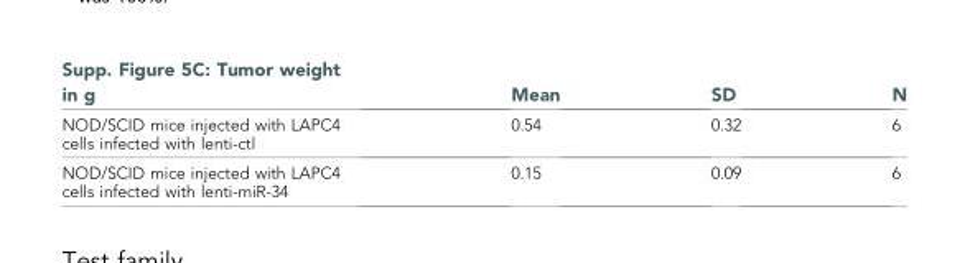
<table><thead><tr><td>Supp. Figure 5C: Tumor weight in g</td><td>Mean</td><td>SD</td><td>N</td></tr></thead><tbody><tr><td>NOD/SCID mice injected with LAPC4 cells infected with lenti-ctl</td><td>0.54</td><td>0.32</td><td>6</td></tr><tr><td>NOD/SCID mice injected with LAPC4 cells infected with lenti-miR-34</td><td>0.15</td><td>0.09</td><td>6</td></tr></tbody></table>